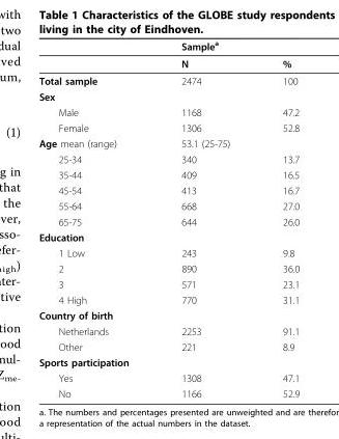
<table><thead><tr><td rowspan="2"></td><td colspan="2">Sample<sup>a</sup></td></tr><tr><td>N</td><td>%</td></tr></thead><tbody><tr><td>Total sample</td><td>2474</td><td>100</td></tr><tr><td colspan="3">Sex</td></tr><tr><td>Male</td><td>1168</td><td>47.2</td></tr><tr><td>Female</td><td>1306</td><td>52.8</td></tr><tr><td>Age mean (range)</td><td>53.1 (25-75)</td><td></td></tr><tr><td>25-34</td><td>340</td><td>13.7</td></tr><tr><td>35-44</td><td>409</td><td>16.5</td></tr><tr><td>45-54</td><td>413</td><td>16.7</td></tr><tr><td>55-64</td><td>668</td><td>27.0</td></tr><tr><td>65-75</td><td>644</td><td>26.0</td></tr><tr><td colspan="3">Education</td></tr><tr><td>1 Low</td><td>243</td><td>9.8</td></tr><tr><td>2</td><td>890</td><td>36.0</td></tr><tr><td>3</td><td>571</td><td>23.1</td></tr><tr><td>4 High</td><td>770</td><td>31.1</td></tr><tr><td colspan="3">Country of birth</td></tr><tr><td>Netherlands</td><td>2253</td><td>91.1</td></tr><tr><td>Other</td><td>221</td><td>8.9</td></tr><tr><td colspan="3">Sports participation</td></tr><tr><td>Yes</td><td>1308</td><td>47.1</td></tr><tr><td>No</td><td>1166</td><td>52.9</td></tr></tbody></table>